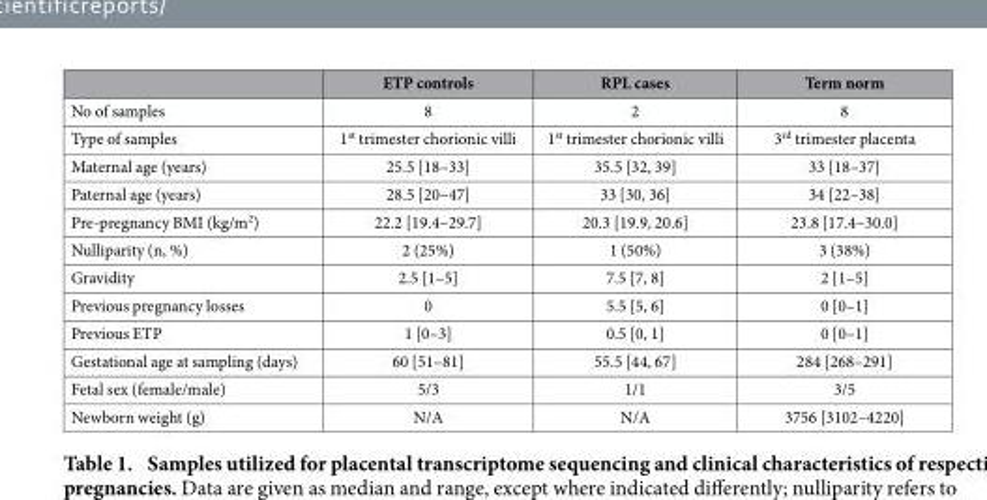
<table><thead><tr><td></td><td>ETP controls</td><td>RPL cases</td><td>Term norm</td></tr></thead><tbody><tr><td>No of samples</td><td>8</td><td>2</td><td>8</td></tr><tr><td>Type of samples</td><td>1<sup>st</sup> trimester chorionic villi</td><td>1<sup>st</sup> trimester chorionic villi</td><td>3<sup>rd</sup> trimester placenta</td></tr><tr><td>Maternal age (years)</td><td>25.5 [18–33]</td><td>35.5 [32, 39]</td><td>33 [18–37]</td></tr><tr><td>Paternal age (years)</td><td>28.5 [20–47]</td><td>33 [30, 36]</td><td>34 [22–38]</td></tr><tr><td>Pre-pregnancy BMI (kg/m<sup>2</sup>)</td><td>22.2 [19.4–29.7]</td><td>20.3 [19.9, 20.6]</td><td>23.8 [17.4–30.0]</td></tr><tr><td>Nulliparity (n, %)</td><td>2 (25%)</td><td>1 (50%)</td><td>3 (38%)</td></tr><tr><td>Gravidity</td><td>2.5 [1–5]</td><td>7.5 [7, 8]</td><td>2 [1–5]</td></tr><tr><td>Previous pregnancy losses</td><td>0</td><td>5.5 [5, 6]</td><td>0 [0–1]</td></tr><tr><td>Previous ETP</td><td>1 [0–3]</td><td>0.5 [0, 1]</td><td>0 [0–1]</td></tr><tr><td>Gestational age at sampling (days)</td><td>60 [51–81]</td><td>55.5 [44, 67]</td><td>284 [268–291]</td></tr><tr><td>Fetal sex (female/male)</td><td>5/3</td><td>1/1</td><td>3/5</td></tr><tr><td>Newborn weight (g)</td><td>N/A</td><td>N/A</td><td>3756 [3102–4220]</td></tr></tbody></table>